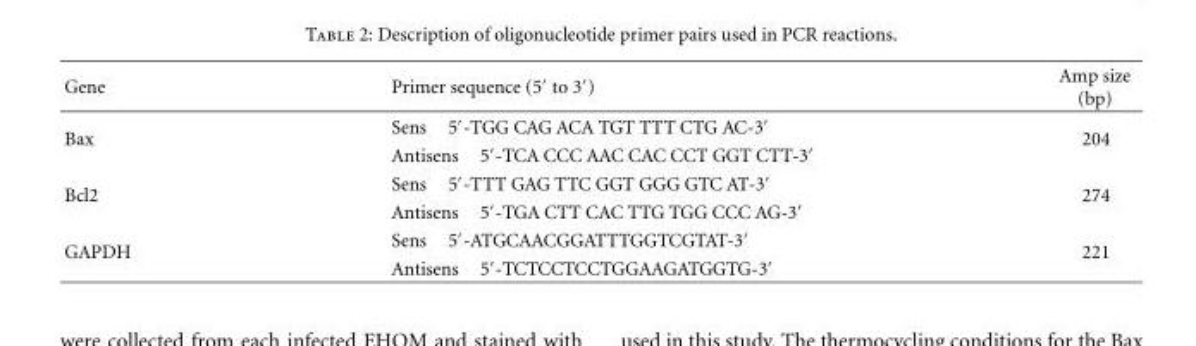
<table><thead><tr><td>Gene</td><td>Primer sequence (5′ to 3′)</td><td>Amp size (bp)</td></tr></thead><tbody><tr><td rowspan="2">Bax</td><td>Sens 5′-TGG CAG ACA TGT TTT CTG AC-3′</td><td rowspan="2">204</td></tr><tr><td>Antisens 5′-TCA CCC AAC CAC CCT GGT CTT-3′</td></tr><tr><td rowspan="2">Bcl2</td><td>Sens 5′-TTT GAG TTC GGT GGG GTC AT-3′</td><td rowspan="2">274</td></tr><tr><td>Antisens 5′-TGA CTT CAC TTG TGG CCC AG-3′</td></tr><tr><td rowspan="2">GAPDH</td><td>Sens 5′-ATGCAACGGATTTGGTCGTAT-3′</td><td rowspan="2">221</td></tr><tr><td>Antisens 5′-TCTCCTCCTGGAAGATGGTG-3′</td></tr></tbody></table>